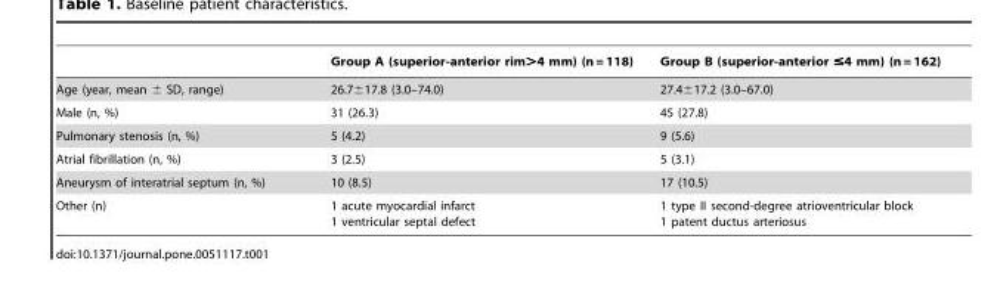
<table><thead><tr><td></td><td>Group A (superior-anterior rim&gt;4 mm) (n = 118)</td><td>Group B (superior-anterior ≤4 mm) (n = 162)</td></tr></thead><tbody><tr><td>Age (year, mean ± SD, range)</td><td>26.7±17.8 (3.0–74.0)</td><td>27.4±17.2 (3.0–67.0)</td></tr><tr><td>Male (n, %)</td><td>31 (26.3)</td><td>45 (27.8)</td></tr><tr><td>Pulmonary stenosis (n, %)</td><td>5 (4.2)</td><td>9 (5.6)</td></tr><tr><td>Atrial fibrillation (n, %)</td><td>3 (2.5)</td><td>5 (3.1)</td></tr><tr><td>Aneurysm of interatrial septum (n, %)</td><td>10 (8.5)</td><td>17 (10.5)</td></tr><tr><td>Other (n)</td><td>1 acute myocardial infarct 1 ventricular septal defect</td><td>1 type II second-degree atrioventricular block 1 patent ductus arteriosus</td></tr></tbody></table>